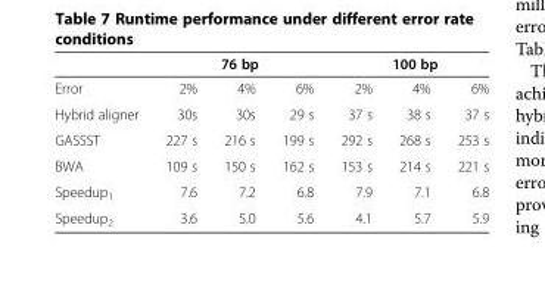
<table><thead><tr><td rowspan="2">Error</td><td colspan="3">76 bp</td><td colspan="3">100 bp</td></tr><tr><td>2%</td><td>4%</td><td>6%</td><td>2%</td><td>4%</td><td>6%</td></tr></thead><tbody><tr><td>Hybrid aligner</td><td>30s</td><td>30s</td><td>29 s</td><td>37 s</td><td>38 s</td><td>37 s</td></tr><tr><td>GASSST</td><td>227 s</td><td>216 s</td><td>199 s</td><td>292 s</td><td>268 s</td><td>253 s</td></tr><tr><td>BWA</td><td>109 s</td><td>150 s</td><td>162 s</td><td>153 s</td><td>214 s</td><td>221 s</td></tr><tr><td>Speedup<sub>1</sub></td><td>7.6</td><td>7.2</td><td>6.8</td><td>7.9</td><td>7.1</td><td>6.8</td></tr><tr><td>Speedup<sub>2</sub></td><td>3.6</td><td>5.0</td><td>5.6</td><td>4.1</td><td>5.7</td><td>5.9</td></tr></tbody></table>